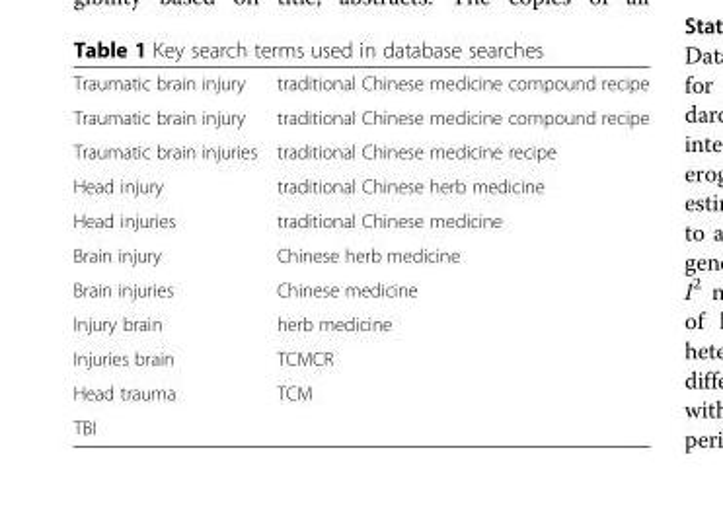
<table><tbody><tr><td>Traumatic brain injury</td><td>traditional Chinese medicine compound recipe</td></tr><tr><td>Traumatic brain injury</td><td>traditional Chinese medicine compound recipe</td></tr><tr><td>Traumatic brain injuries</td><td>traditional Chinese medicine recipe</td></tr><tr><td>Head injury</td><td>traditional Chinese herb medicine</td></tr><tr><td>Head injuries</td><td>traditional Chinese medicine</td></tr><tr><td>Brain injury</td><td>Chinese herb medicine</td></tr><tr><td>Brain injuries</td><td>Chinese medicine</td></tr><tr><td>Injury brain</td><td>herb medicine</td></tr><tr><td>Injuries brain</td><td>TCMCR</td></tr><tr><td>Head trauma</td><td>TCM</td></tr><tr><td>TBI</td><td></td></tr></tbody></table>